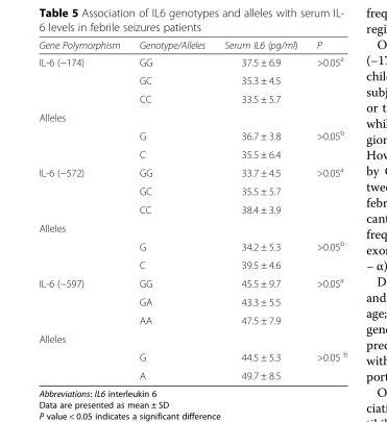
<table><thead><tr><td>Gene Polymorphism</td><td>Genotype/Alleles</td><td>Serum IL6 (pg/ml)</td><td>P</td></tr></thead><tbody><tr><td rowspan="3">IL-6 (−174)</td><td>GG</td><td>37.5 ± 6.9</td><td rowspan="3">&gt;0.05<sup>a</sup></td></tr><tr><td>GC</td><td>35.3 ± 4.5</td></tr><tr><td>CC</td><td>33.5 ± 5.7</td></tr><tr><td colspan="4">Alleles</td></tr><tr><td rowspan="2"></td><td>G</td><td>36.7 ± 3.8</td><td rowspan="2">&gt;0.05<sup>b</sup></td></tr><tr><td>C</td><td>35.5 ± 6.4</td></tr><tr><td rowspan="3">IL-6 (−572)</td><td>GG</td><td>33.7 ± 4.5</td><td rowspan="3">&gt;0.05<sup>a</sup></td></tr><tr><td>GC</td><td>35.5 ± 5.7</td></tr><tr><td>CC</td><td>38.4 ± 3.9</td></tr><tr><td colspan="4">Alleles</td></tr><tr><td rowspan="2"></td><td>G</td><td>34.2 ± 5.3</td><td rowspan="2">&gt;0.05<sup>b</sup></td></tr><tr><td>C</td><td>39.5 ± 4.6</td></tr><tr><td rowspan="3">IL-6 (−597)</td><td>GG</td><td>45.5 ± 9.7</td><td rowspan="3">&gt;0.05<sup>a</sup></td></tr><tr><td>GA</td><td>43.3 ± 5.5</td></tr><tr><td>AA</td><td>47.5 ± 7.9</td></tr><tr><td colspan="4">Alleles</td></tr><tr><td rowspan="2"></td><td>G</td><td>44.5 ± 5.3</td><td rowspan="2">&gt;0.05 <sup>b</sup></td></tr><tr><td>A</td><td>49.7 ± 8.5</td></tr></tbody></table>